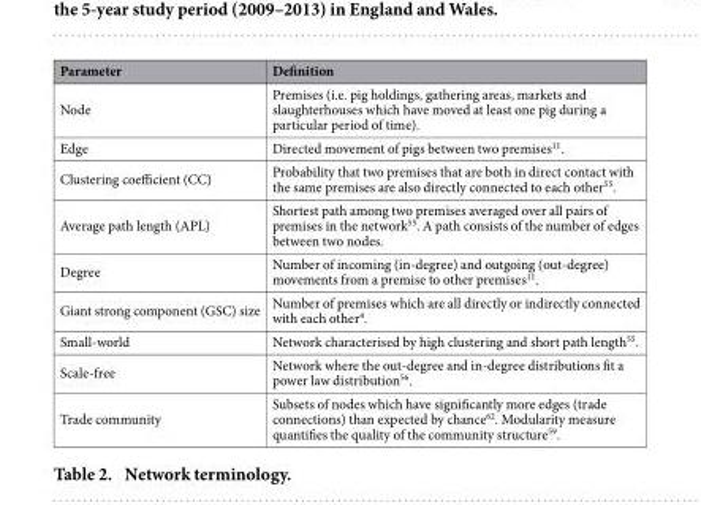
<table><thead><tr><td>Parameter</td><td>Definition</td></tr></thead><tbody><tr><td>Node</td><td>Premises (i.e. pig holdings, gathering areas, markets and slaughterhouses which have moved at least one pig during a particular period of time).</td></tr><tr><td>Edge</td><td>Directed movement of pigs between two premises<sup>11</sup>.</td></tr><tr><td>Clustering coefficient (CC)</td><td>Probability that two premises that are both in direct contact with the same premises are also directly connected to each other<sup>55</sup>.</td></tr><tr><td>Average path length (APL)</td><td>Shortest path among two premises averaged over all pairs of premises in the network<sup>55</sup>. A path consists of the number of edges between two nodes.</td></tr><tr><td>Degree</td><td>Number of incoming (in-degree) and outgoing (out-degree) movements from a premise to other premises<sup>11</sup>.</td></tr><tr><td>Giant strong component (GSC) size</td><td>Number of premises which are all directly or indirectly connected with each other<sup>4</sup>.</td></tr><tr><td>Small-world</td><td>Network characterised by high clustering and short path length<sup>55</sup>.</td></tr><tr><td>Scale-free</td><td>Network where the out-degree and in-degree distributions fit a power law distribution<sup>56</sup>.</td></tr><tr><td>Trade community</td><td>Subsets of nodes which have significantly more edges (trade connections) than expected by chance<sup>62</sup>. Modularity measure quantifies the quality of the community structure<sup>59</sup>.</td></tr></tbody></table>